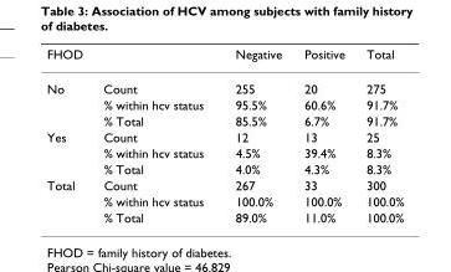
<table><thead><tr><td>FHOD</td><td></td><td>Negative</td><td>Positive</td><td>Total</td></tr></thead><tbody><tr><td rowspan="3">No</td><td>Count</td><td>255</td><td>20</td><td>275</td></tr><tr><td>% within hcv status</td><td>95.5%</td><td>60.6%</td><td>91.7%</td></tr><tr><td>% Total</td><td>85.5%</td><td>6.7%</td><td>91.7%</td></tr><tr><td rowspan="3">Yes</td><td>Count</td><td>12</td><td>13</td><td>25</td></tr><tr><td>% within hcv status</td><td>4.5%</td><td>39.4%</td><td>8.3%</td></tr><tr><td>% Total</td><td>4.0%</td><td>4.3%</td><td>8.3%</td></tr><tr><td rowspan="3">Total</td><td>Count</td><td>267</td><td>33</td><td>300</td></tr><tr><td>% within hcv status</td><td>100.0%</td><td>100.0%</td><td>100.0%</td></tr><tr><td>% Total</td><td>89.0%</td><td>11.0%</td><td>100.0%</td></tr></tbody></table>